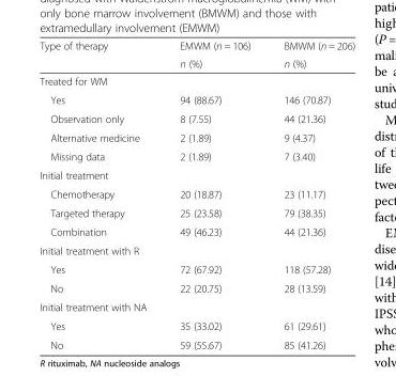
<table><thead><tr><td rowspan="2">Type of therapy</td><td rowspan="2">EMWM (n = 106) n (%)</td><td rowspan="2">BMWM (n = 206) n (%)</td></tr><tr></tr></thead><tbody><tr><td colspan="3">Treated for WM</td></tr><tr><td>Yes</td><td>94 (88.67)</td><td>146 (70.87)</td></tr><tr><td>Observation only</td><td>8 (7.55)</td><td>44 (21.36)</td></tr><tr><td>Alternative medicine</td><td>2 (1.89)</td><td>9 (4.37)</td></tr><tr><td>Missing data</td><td>2 (1.89)</td><td>7 (3.40)</td></tr><tr><td colspan="3">Initial treatment</td></tr><tr><td>Chemotherapy</td><td>20 (18.87)</td><td>23 (11.17)</td></tr><tr><td>Targeted therapy</td><td>25 (23.58)</td><td>79 (38.35)</td></tr><tr><td>Combination</td><td>49 (46.23)</td><td>44 (21.36)</td></tr><tr><td colspan="3">Initial treatment with R</td></tr><tr><td>Yes</td><td>72 (67.92)</td><td>118 (57.28)</td></tr><tr><td>No</td><td>22 (20.75)</td><td>28 (13.59)</td></tr><tr><td colspan="3">Initial treatment with NA</td></tr><tr><td>Yes</td><td>35 (33.02)</td><td>61 (29.61)</td></tr><tr><td>No</td><td>59 (55.67)</td><td>85 (41.26)</td></tr></tbody></table>